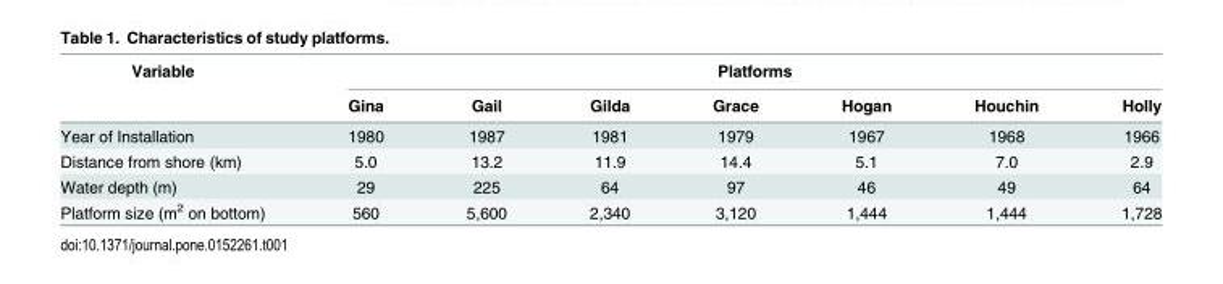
<table><thead><tr><td rowspan="2">Variable</td><td colspan="7">Platforms</td></tr><tr><td>Gina</td><td>Gail</td><td>Gilda</td><td>Grace</td><td>Hogan</td><td>Houchin</td><td>Holly</td></tr></thead><tbody><tr><td>Year of Installation</td><td>1980</td><td>1987</td><td>1981</td><td>1979</td><td>1967</td><td>1968</td><td>1966</td></tr><tr><td>Distance from shore (km)</td><td>5.0</td><td>13.2</td><td>11.9</td><td>14.4</td><td>5.1</td><td>7.0</td><td>2.9</td></tr><tr><td>Water depth (m)</td><td>29</td><td>225</td><td>64</td><td>97</td><td>46</td><td>49</td><td>64</td></tr><tr><td>Platform size (m<sup>2</sup> on bottom)</td><td>560</td><td>5,600</td><td>2,340</td><td>3,120</td><td>1,444</td><td>1,444</td><td>1,728</td></tr></tbody></table>